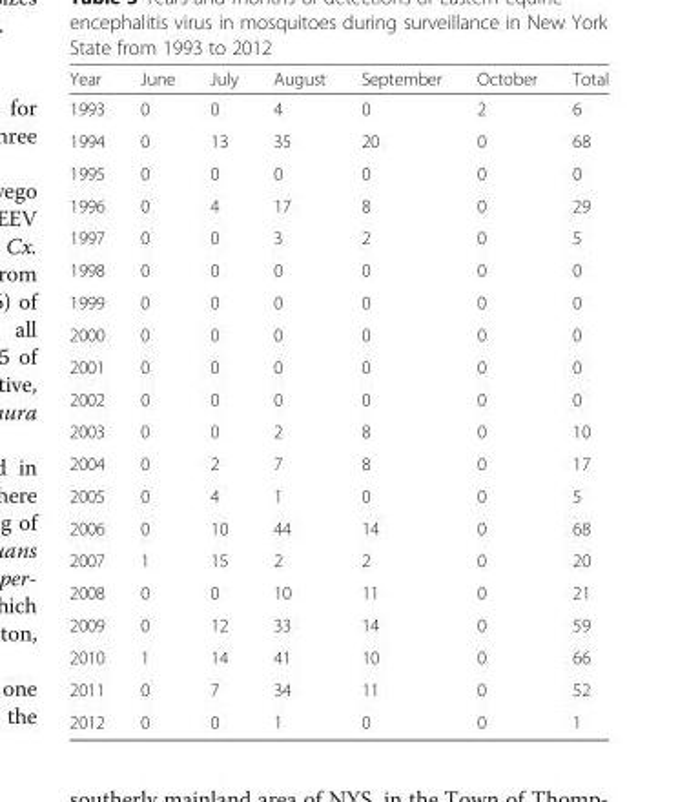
<table><thead><tr><td>Year</td><td>June</td><td>July</td><td>August</td><td>September</td><td>October</td><td>Total</td></tr></thead><tbody><tr><td>1993</td><td>0</td><td>0</td><td>4</td><td>0</td><td>2</td><td>6</td></tr><tr><td>1994</td><td>0</td><td>13</td><td>35</td><td>20</td><td>0</td><td>68</td></tr><tr><td>1995</td><td>0</td><td>0</td><td>0</td><td>0</td><td>0</td><td>0</td></tr><tr><td>1996</td><td>0</td><td>4</td><td>17</td><td>8</td><td>0</td><td>29</td></tr><tr><td>1997</td><td>0</td><td>0</td><td>3</td><td>2</td><td>0</td><td>5</td></tr><tr><td>1998</td><td>0</td><td>0</td><td>0</td><td>0</td><td>0</td><td>0</td></tr><tr><td>1999</td><td>0</td><td>0</td><td>0</td><td>0</td><td>0</td><td>0</td></tr><tr><td>2000</td><td>0</td><td>0</td><td>0</td><td>0</td><td>0</td><td>0</td></tr><tr><td>2001</td><td>0</td><td>0</td><td>0</td><td>0</td><td>0</td><td>0</td></tr><tr><td>2002</td><td>0</td><td>0</td><td>0</td><td>0</td><td>0</td><td>0</td></tr><tr><td>2003</td><td>0</td><td>0</td><td>2</td><td>8</td><td>0</td><td>10</td></tr><tr><td>2004</td><td>0</td><td>2</td><td>7</td><td>8</td><td>0</td><td>17</td></tr><tr><td>2005</td><td>0</td><td>4</td><td>1</td><td>0</td><td>0</td><td>5</td></tr><tr><td>2006</td><td>0</td><td>10</td><td>44</td><td>14</td><td>0</td><td>68</td></tr><tr><td>2007</td><td>1</td><td>15</td><td>2</td><td>2</td><td>0</td><td>20</td></tr><tr><td>2008</td><td>0</td><td>0</td><td>10</td><td>11</td><td>0</td><td>21</td></tr><tr><td>2009</td><td>0</td><td>12</td><td>33</td><td>14</td><td>0</td><td>59</td></tr><tr><td>2010</td><td>1</td><td>14</td><td>41</td><td>10</td><td>0</td><td>66</td></tr><tr><td>2011</td><td>0</td><td>7</td><td>34</td><td>11</td><td>0</td><td>52</td></tr><tr><td>2012</td><td>0</td><td>0</td><td>1</td><td>0</td><td>0</td><td>1</td></tr></tbody></table>